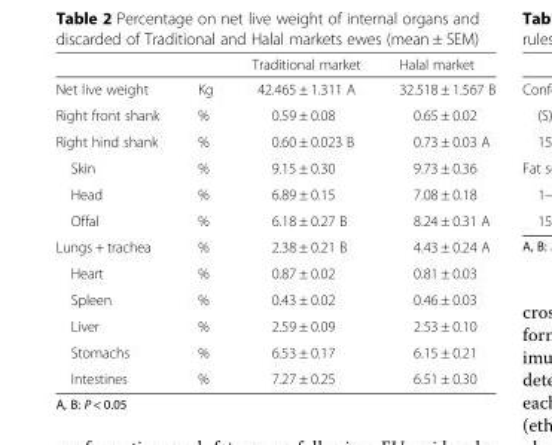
<table><thead><tr><td></td><td></td><td>Traditional market</td><td>Halal market</td></tr></thead><tbody><tr><td>Net live weight</td><td>Kg</td><td>42.465 ± 1.311 A</td><td>32.518 ± 1.567 B</td></tr><tr><td>Right front shank</td><td>%</td><td>0.59 ± 0.08</td><td>0.65 ± 0.02</td></tr><tr><td>Right hind shank</td><td>%</td><td>0.60 ± 0.023 B</td><td>0.73 ± 0.03 A</td></tr><tr><td>Skin</td><td>%</td><td>9.15 ± 0.30</td><td>9.73 ± 0.36</td></tr><tr><td>Head</td><td>%</td><td>6.89 ± 0.15</td><td>7.08 ± 0.18</td></tr><tr><td>Offal</td><td>%</td><td>6.18 ± 0.27 B</td><td>8.24 ± 0.31 A</td></tr><tr><td>Lungs + trachea</td><td>%</td><td>2.38 ± 0.21 B</td><td>4.43 ± 0.24 A</td></tr><tr><td>Heart</td><td>%</td><td>0.87 ± 0.02</td><td>0.81 ± 0.03</td></tr><tr><td>Spleen</td><td>%</td><td>0.43 ± 0.02</td><td>0.46 ± 0.03</td></tr><tr><td>Liver</td><td>%</td><td>2.59 ± 0.09</td><td>2.53 ± 0.10</td></tr><tr><td>Stomachs</td><td>%</td><td>6.53 ± 0.17</td><td>6.15 ± 0.21</td></tr><tr><td>Intestines</td><td>%</td><td>7.27 ± 0.25</td><td>6.51 ± 0.30</td></tr></tbody></table>